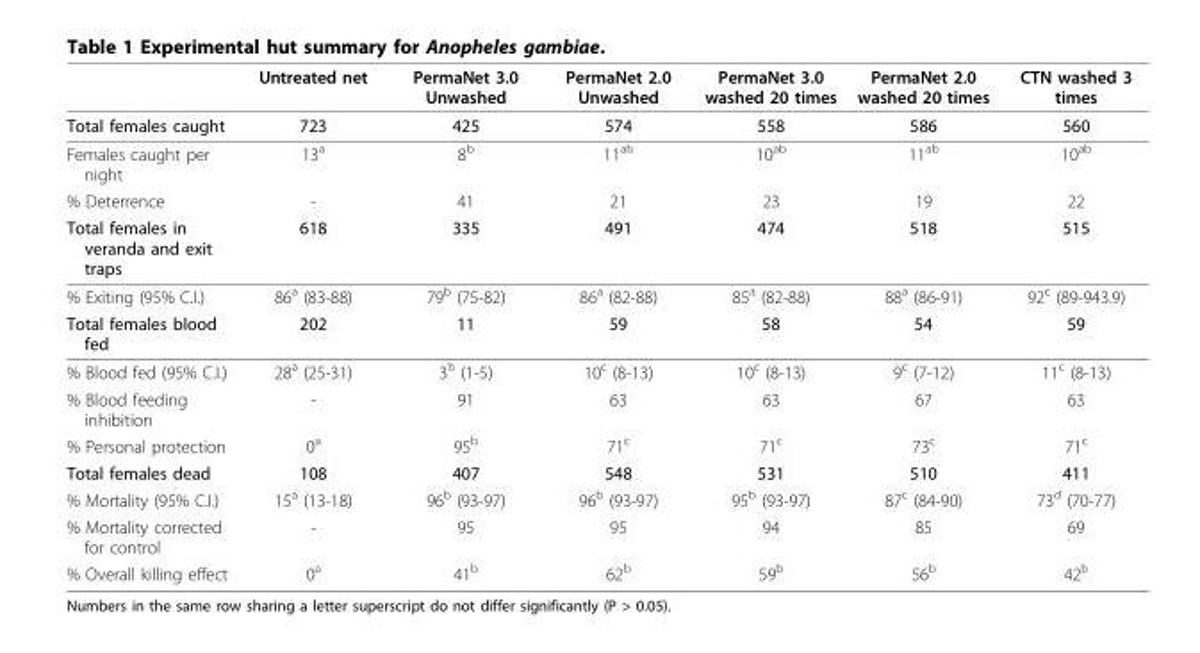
<table><thead><tr><td></td><td>Untreated net</td><td>PermaNet 3.0 Unwashed</td><td>PermaNet 2.0 Unwashed</td><td>PermaNet 3.0 washed 20 times</td><td>PermaNet 2.0 washed 20 times</td><td>CTN washed 3 times</td></tr></thead><tbody><tr><td>Total females caught</td><td>723</td><td>425</td><td>574</td><td>558</td><td>586</td><td>560</td></tr><tr><td>Females caught per night</td><td>13<sup>a</sup></td><td>8<sup>b</sup></td><td>11<sup>ab</sup></td><td>10<sup>ab</sup></td><td>11<sup>ab</sup></td><td>10<sup>ab</sup></td></tr><tr><td>% Deterrence</td><td>-</td><td>41</td><td>21</td><td>23</td><td>19</td><td>22</td></tr><tr><td>Total females in veranda and exit traps</td><td>618</td><td>335</td><td>491</td><td>474</td><td>518</td><td>515</td></tr><tr><td>% Exiting (95% C.I.)</td><td>86<sup>a</sup> (83-88)</td><td>79<sup>b</sup> (75-82)</td><td>86<sup>a</sup> (82-88)</td><td>85<sup>a</sup> (82-88)</td><td>88<sup>a</sup> (86-91)</td><td>92<sup>c</sup> (89-943.9)</td></tr><tr><td>Total females blood fed</td><td>202</td><td>11</td><td>59</td><td>58</td><td>54</td><td>59</td></tr><tr><td>% Blood fed (95% C.I.)</td><td>28<sup>a</sup> (25-31)</td><td>3<sup>b</sup> (1-5)</td><td>10<sup>c</sup> (8-13)</td><td>10<sup>c</sup> (8-13)</td><td>9<sup>c</sup> (7-12)</td><td>11<sup>c</sup> (8-13)</td></tr><tr><td>% Blood feeding inhibition</td><td>-</td><td>91</td><td>63</td><td>63</td><td>67</td><td>63</td></tr><tr><td>% Personal protection</td><td>0<sup>a</sup></td><td>95<sup>b</sup></td><td>71<sup>c</sup></td><td>71<sup>c</sup></td><td>73<sup>c</sup></td><td>71<sup>c</sup></td></tr><tr><td>Total females dead</td><td>108</td><td>407</td><td>548</td><td>531</td><td>510</td><td>411</td></tr><tr><td>% Mortality (95% C.I.)</td><td>15<sup>a</sup> (13-18)</td><td>96<sup>b</sup> (93-97)</td><td>96<sup>b</sup> (93-97)</td><td>95<sup>b</sup> (93-97)</td><td>87<sup>c</sup> (84-90)</td><td>73<sup>d</sup> (70-77)</td></tr><tr><td>% Mortality corrected for control</td><td>-</td><td>95</td><td>95</td><td>94</td><td>85</td><td>69</td></tr><tr><td>% Overall killing effect</td><td>0<sup>a</sup></td><td>41<sup>b</sup></td><td>62<sup>b</sup></td><td>59<sup>b</sup></td><td>56<sup>b</sup></td><td>42<sup>b</sup></td></tr></tbody></table>